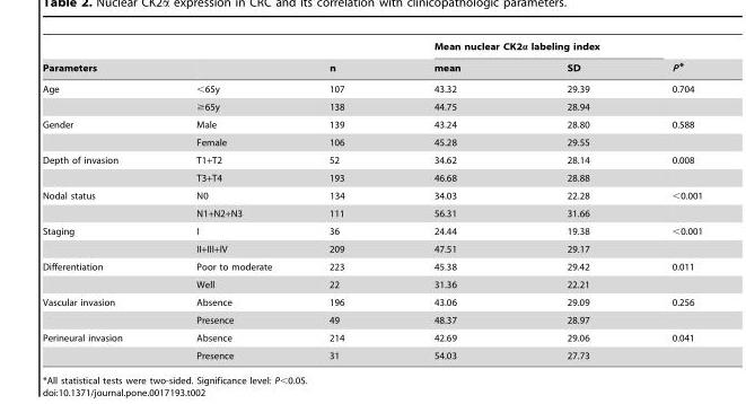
<table><thead><tr><td rowspan="2">Parameters</td><td rowspan="2"></td><td rowspan="2">n</td><td colspan="2">Mean nuclear CK2α labeling index</td><td rowspan="2">P*</td></tr><tr><td>mean</td><td>SD</td></tr></thead><tbody><tr><td rowspan="2">Age</td><td>&lt;65y</td><td>107</td><td>43.32</td><td>29.39</td><td>0.704</td></tr><tr><td>≥65y</td><td>138</td><td>44.75</td><td>28.94</td><td></td></tr><tr><td rowspan="2">Gender</td><td>Male</td><td>139</td><td>43.24</td><td>28.80</td><td>0.588</td></tr><tr><td>Female</td><td>106</td><td>45.28</td><td>29.55</td><td></td></tr><tr><td rowspan="2">Depth of invasion</td><td>T1+T2</td><td>52</td><td>34.62</td><td>28.14</td><td>0.008</td></tr><tr><td>T3+T4</td><td>193</td><td>46.68</td><td>28.88</td><td></td></tr><tr><td rowspan="2">Nodal status</td><td>N0</td><td>134</td><td>34.03</td><td>22.28</td><td>&lt;0.001</td></tr><tr><td>N1+N2+N3</td><td>111</td><td>56.31</td><td>31.66</td><td></td></tr><tr><td rowspan="2">Staging</td><td>I</td><td>36</td><td>24.44</td><td>19.38</td><td>&lt;0.001</td></tr><tr><td>II+III+IV</td><td>209</td><td>47.51</td><td>29.17</td><td></td></tr><tr><td rowspan="2">Differentiation</td><td>Poor to moderate</td><td>223</td><td>45.38</td><td>29.42</td><td>0.011</td></tr><tr><td>Well</td><td>22</td><td>31.36</td><td>22.21</td><td></td></tr><tr><td rowspan="2">Vascular invasion</td><td>Absence</td><td>196</td><td>43.06</td><td>29.09</td><td>0.256</td></tr><tr><td>Presence</td><td>49</td><td>48.37</td><td>28.97</td><td></td></tr><tr><td rowspan="2">Perineural invasion</td><td>Absence</td><td>214</td><td>42.69</td><td>29.06</td><td>0.041</td></tr><tr><td>Presence</td><td>31</td><td>54.03</td><td>27.73</td><td></td></tr></tbody></table>